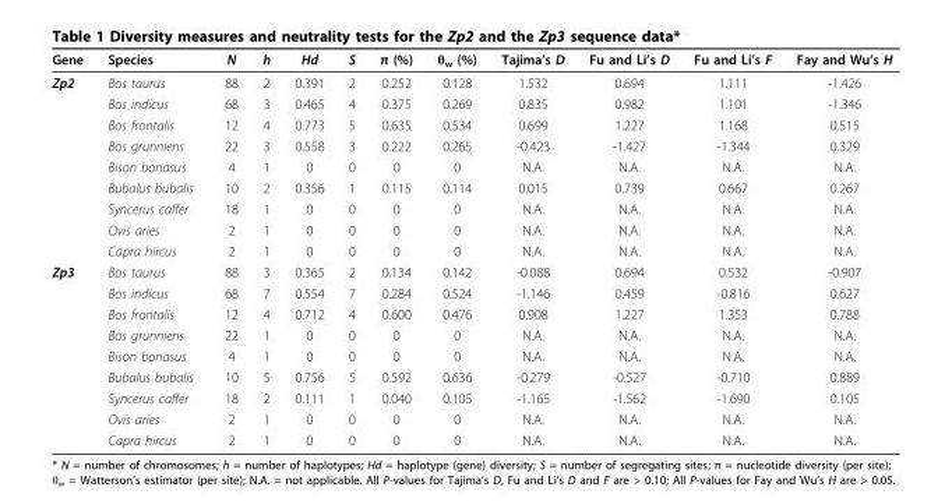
<table><thead><tr><td>Gene</td><td>Species</td><td>N</td><td>h</td><td>Hd</td><td>S</td><td>π (%)</td><td>θ<sub>w</sub> (%)</td><td>Tajima’s D</td><td>Fu and Li’s D</td><td>Fu and Li’s F</td><td>Fay and Wu’s H</td></tr></thead><tbody><tr><td rowspan="9">Zp2</td><td>Bos taurus</td><td>88</td><td>2</td><td>0.391</td><td>2</td><td>0.252</td><td>0.128</td><td>1.532</td><td>0.694</td><td>1.111</td><td>-1.426</td></tr><tr><td>Bos indicus</td><td>68</td><td>3</td><td>0.465</td><td>4</td><td>0.375</td><td>0.269</td><td>0.835</td><td>0.982</td><td>1.101</td><td>-1.346</td></tr><tr><td>Bos frontalis</td><td>12</td><td>4</td><td>0.773</td><td>5</td><td>0.635</td><td>0.534</td><td>0.699</td><td>1.227</td><td>1.168</td><td>0.515</td></tr><tr><td>Bos grunniens</td><td>22</td><td>3</td><td>0.558</td><td>3</td><td>0.222</td><td>0.265</td><td>-0.423</td><td>-1.427</td><td>-1.344</td><td>0.329</td></tr><tr><td>Bison bonasus</td><td>4</td><td>1</td><td>0</td><td>0</td><td>0</td><td>0</td><td>N.A.</td><td>N.A.</td><td>N.A.</td><td>N.A.</td></tr><tr><td>Bubalus bubalis</td><td>10</td><td>2</td><td>0.356</td><td>1</td><td>0.115</td><td>0.114</td><td>0.015</td><td>0.739</td><td>0.667</td><td>0.267</td></tr><tr><td>Syncerus caffer</td><td>18</td><td>1</td><td>0</td><td>0</td><td>0</td><td>0</td><td>N.A.</td><td>N.A.</td><td>N.A.</td><td>N.A.</td></tr><tr><td>Ovis aries</td><td>2</td><td>1</td><td>0</td><td>0</td><td>0</td><td>0</td><td>N.A.</td><td>N.A.</td><td>N.A.</td><td>N.A.</td></tr><tr><td>Capra hircus</td><td>2</td><td>1</td><td>0</td><td>0</td><td>0</td><td>0</td><td>N.A.</td><td>N.A.</td><td>N.A.</td><td>N.A.</td></tr><tr><td rowspan="9">Zp3</td><td>Bos taurus</td><td>88</td><td>3</td><td>0.365</td><td>2</td><td>0.134</td><td>0.142</td><td>-0.088</td><td>0.694</td><td>0.532</td><td>-0.907</td></tr><tr><td>Bos indicus</td><td>68</td><td>7</td><td>0.554</td><td>7</td><td>0.284</td><td>0.524</td><td>-1.146</td><td>0.459</td><td>-0.816</td><td>0.627</td></tr><tr><td>Bos frontalis</td><td>12</td><td>4</td><td>0.712</td><td>4</td><td>0.600</td><td>0.476</td><td>0.908</td><td>1.227</td><td>1.353</td><td>0.788</td></tr><tr><td>Bos grunniens</td><td>22</td><td>1</td><td>0</td><td>0</td><td>0</td><td>0</td><td>N.A.</td><td>N.A.</td><td>N.A.</td><td>N.A.</td></tr><tr><td>Bison bonasus</td><td>4</td><td>1</td><td>0</td><td>0</td><td>0</td><td>0</td><td>N.A.</td><td>N.A.</td><td>N.A.</td><td>N.A.</td></tr><tr><td>Bubalus bubalis</td><td>10</td><td>5</td><td>0.756</td><td>5</td><td>0.592</td><td>0.636</td><td>-0.279</td><td>-0.527</td><td>-0.710</td><td>0.889</td></tr><tr><td>Syncerus caffer</td><td>18</td><td>2</td><td>0.111</td><td>1</td><td>0.040</td><td>0.105</td><td>-1.165</td><td>-1.562</td><td>-1.690</td><td>0.105</td></tr><tr><td>Ovis aries</td><td>2</td><td>1</td><td>0</td><td>0</td><td>0</td><td>0</td><td>N.A.</td><td>N.A.</td><td>N.A.</td><td>N.A.</td></tr><tr><td>Capra hircus</td><td>2</td><td>1</td><td>0</td><td>0</td><td>0</td><td>0</td><td>N.A.</td><td>N.A.</td><td>N.A.</td><td>N.A.</td></tr></tbody></table>